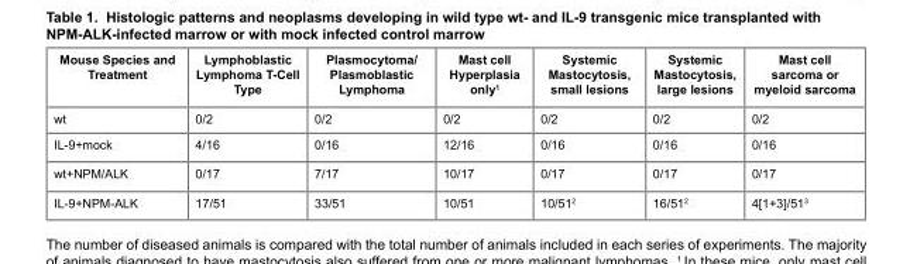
<table><thead><tr><td>Mouse Species and Treatment</td><td>Lymphoblastic Lymphoma T-Cell Type</td><td>Plasmocytoma/ Plasmoblastic Lymphoma</td><td>Mast cell Hyperplasia only<sup>1</sup></td><td>Systemic Mastocytosis, small lesions</td><td>Systemic Mastocytosis, large lesions</td><td>Mast cell sarcoma or myeloid sarcoma</td></tr></thead><tbody><tr><td>wt</td><td>0/2</td><td>0/2</td><td>0/2</td><td>0/2</td><td>0/2</td><td>0/2</td></tr><tr><td>IL-9+mock</td><td>4/16</td><td>0/16</td><td>12/16</td><td>0/16</td><td>0/16</td><td>0/16</td></tr><tr><td>wt+NPM/ALK</td><td>0/17</td><td>7/17</td><td>10/17</td><td>0/17</td><td>0/17</td><td>0/17</td></tr><tr><td>IL-9+NPM-ALK</td><td>17/51</td><td>33/51</td><td>10/51</td><td>10/51<sup>2</sup></td><td>16/51<sup>2</sup></td><td>4[1+3]/51<sup>3</sup></td></tr></tbody></table>